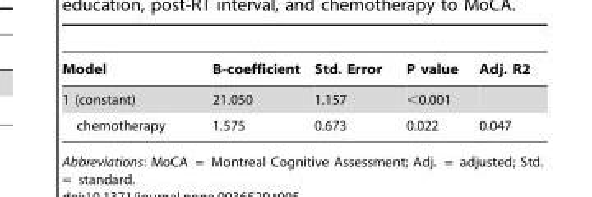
<table><thead><tr><td>Model</td><td>B-coefficient</td><td>Std. Error</td><td>P value</td><td>Adj. R2</td></tr></thead><tbody><tr><td>1 (constant)</td><td>21.050</td><td>1.157</td><td>&lt;0.001</td><td></td></tr><tr><td>chemotherapy</td><td>1.575</td><td>0.673</td><td>0.022</td><td>0.047</td></tr></tbody></table>